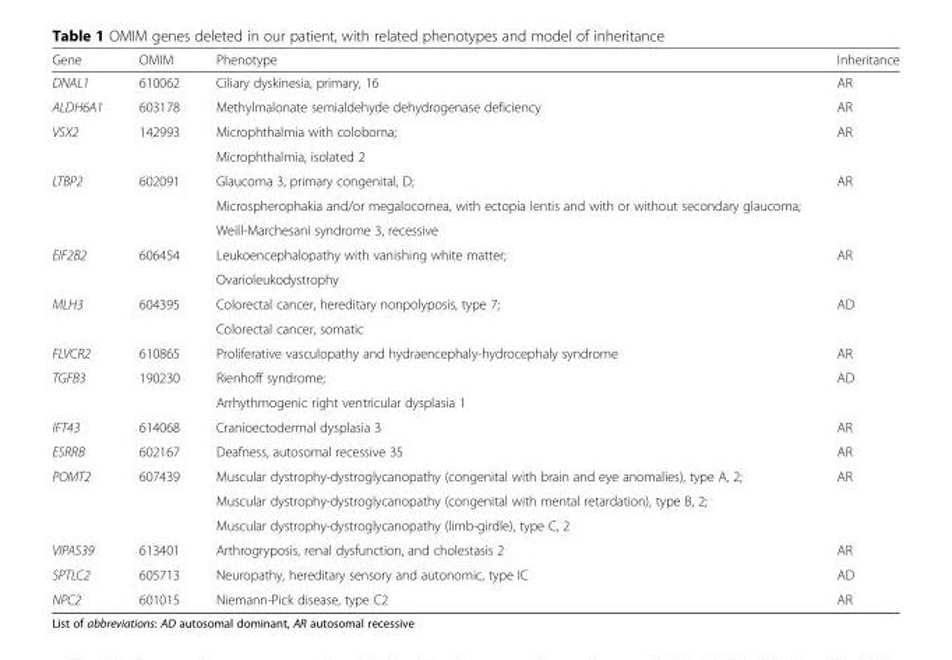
<table><thead><tr><td>Gene</td><td>OMIM</td><td>Phenotype</td><td>Inheritance</td></tr></thead><tbody><tr><td>DNAL1</td><td>610062</td><td>Ciliary dyskinesia, primary, 16</td><td>AR</td></tr><tr><td>ALDH6A1</td><td>603178</td><td>Methylmalonate semialdehyde dehydrogenase deficiency</td><td>AR</td></tr><tr><td rowspan="2">VSX2</td><td rowspan="2">142993</td><td>Microphthalmia with coloboma;</td><td rowspan="2">AR</td></tr><tr><td>Microphthalmia, isolated 2</td></tr><tr><td rowspan="3">LTBP2</td><td rowspan="3">602091</td><td>Glaucoma 3, primary congenital, D;</td><td rowspan="3">AR</td></tr><tr><td>Microspherophakia and/or megalocornea, with ectopia lentis and with or without secondary glaucoma;</td></tr><tr><td>Weill-Marchesani syndrome 3, recessive</td></tr><tr><td rowspan="2">EIF2B2</td><td rowspan="2">606454</td><td>Leukoencephalopathy with vanishing white matter;</td><td rowspan="2">AR</td></tr><tr><td>Ovarioleukodystrophy</td></tr><tr><td rowspan="2">MLH3</td><td rowspan="2">604395</td><td>Colorectal cancer, hereditary nonpolyposis, type 7;</td><td rowspan="2">AD</td></tr><tr><td>Colorectal cancer, somatic</td></tr><tr><td>FLVCR2</td><td>610865</td><td>Proliferative vasculopathy and hydraencephaly-hydrocephaly syndrome</td><td>AR</td></tr><tr><td rowspan="2">TGFB3</td><td rowspan="2">190230</td><td>Rienhoff syndrome;</td><td rowspan="2">AD</td></tr><tr><td>Arrhythmogenic right ventricular dysplasia 1</td></tr><tr><td>IFT43</td><td>614068</td><td>Cranioectodermal dysplasia 3</td><td>AR</td></tr><tr><td>ESRRB</td><td>602167</td><td>Deafness, autosomal recessive 35</td><td>AR</td></tr><tr><td rowspan="3">POMT2</td><td rowspan="3">607439</td><td>Muscular dystrophy-dystroglycanopathy (congenital with brain and eye anomalies), type A, 2;</td><td rowspan="3">AR</td></tr><tr><td>Muscular dystrophy-dystroglycanopathy (congenital with mental retardation), type B, 2;</td></tr><tr><td>Muscular dystrophy-dystroglycanopathy (limb-girdle), type C, 2</td></tr><tr><td>VIPAS39</td><td>613401</td><td>Arthrogryposis, renal dysfunction, and cholestasis 2</td><td>AR</td></tr><tr><td>SPTLC2</td><td>605713</td><td>Neuropathy, hereditary sensory and autonomic, type IC</td><td>AD</td></tr><tr><td>NPC2</td><td>601015</td><td>Niemann-Pick disease, type C2</td><td>AR</td></tr></tbody></table>